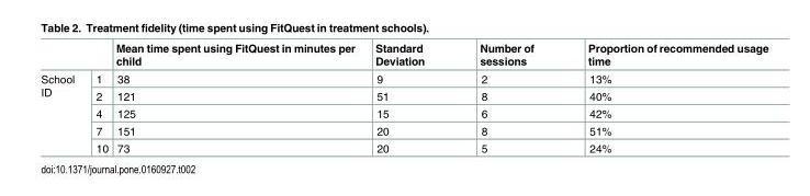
<table><thead><tr><td></td><td></td><td>Mean time spent using FitQuest in minutes per child</td><td>Standard Deviation</td><td>Number of sessions</td><td>Proportion of recommended usage time</td></tr></thead><tbody><tr><td rowspan="5">School ID</td><td>1</td><td>38</td><td>9</td><td>2</td><td>13%</td></tr><tr><td>2</td><td>121</td><td>51</td><td>8</td><td>40%</td></tr><tr><td>4</td><td>125</td><td>15</td><td>6</td><td>42%</td></tr><tr><td>7</td><td>151</td><td>20</td><td>8</td><td>51%</td></tr><tr><td>10</td><td>73</td><td>20</td><td>5</td><td>24%</td></tr></tbody></table>